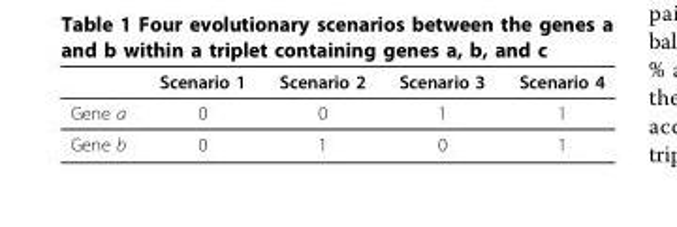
<table><thead><tr><td></td><td>Scenario 1</td><td>Scenario 2</td><td>Scenario 3</td><td>Scenario 4</td></tr></thead><tbody><tr><td>Gene a</td><td>0</td><td>0</td><td>1</td><td>1</td></tr><tr><td>Gene b</td><td>0</td><td>1</td><td>0</td><td>1</td></tr></tbody></table>